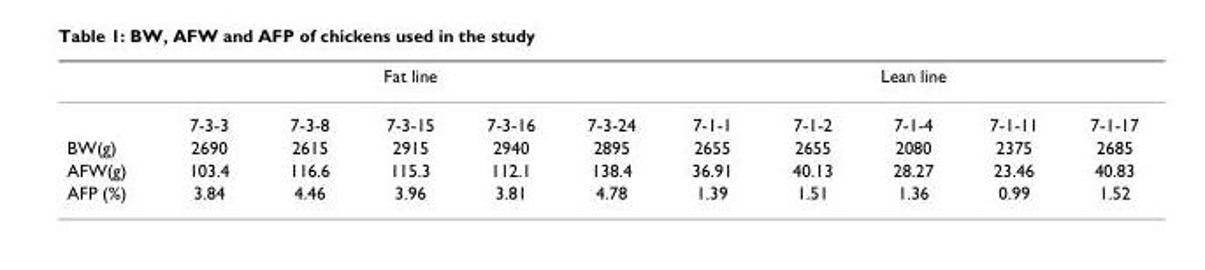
<table><thead><tr><td rowspan="2"></td><td colspan="5">Fat line</td><td colspan="5">Lean line</td></tr><tr><td>7-3-3</td><td>7-3-8</td><td>7-3-15</td><td>7-3-16</td><td>7-3-24</td><td>7-1-1</td><td>7-1-2</td><td>7-1-4</td><td>7-1-11</td><td>7-1-17</td></tr></thead><tbody><tr><td>BW(g)</td><td>2690</td><td>2615</td><td>2915</td><td>2940</td><td>2895</td><td>2655</td><td>2655</td><td>2080</td><td>2375</td><td>2685</td></tr><tr><td>AFW(g)</td><td>103.4</td><td>116.6</td><td>115.3</td><td>112.1</td><td>138.4</td><td>36.91</td><td>40.13</td><td>28.27</td><td>23.46</td><td>40.83</td></tr><tr><td>AFP (%)</td><td>3.84</td><td>4.46</td><td>3.96</td><td>3.81</td><td>4.78</td><td>1.39</td><td>1.51</td><td>1.36</td><td>0.99</td><td>1.52</td></tr></tbody></table>